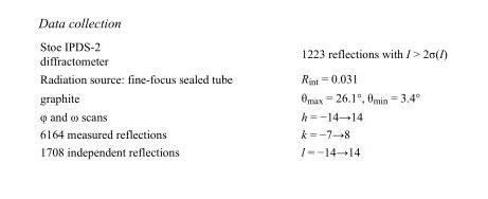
<table><tbody><tr><td>Stoe IPDS-2 diffractometer</td><td>1223 reflections with I &gt; 2σ(I)</td></tr><tr><td>Radiation source: fine-focus sealed tube</td><td>R<sub>int</sub> = 0.031</td></tr><tr><td>graphite</td><td>θ<sub>max</sub> = 26.1°, θ<sub>min</sub> = 3.4°</td></tr><tr><td>φ and ω scans</td><td>h = −14→14</td></tr><tr><td>6164 measured reflections</td><td>k = −7→8</td></tr><tr><td>1708 independent reflections</td><td>l = −14→14</td></tr></tbody></table>